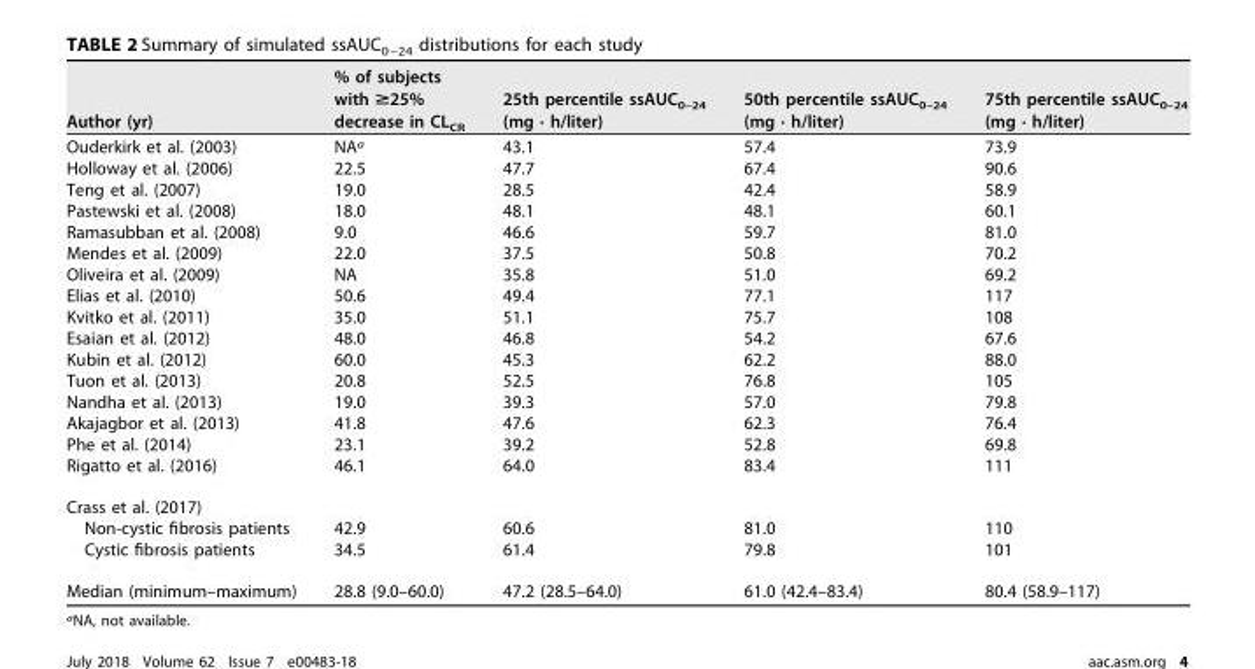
<table><thead><tr><td>Author (yr)</td><td>% of subjects with &gt;25% decrease in CLCR</td><td>25th percentile ssAUC<sub>0–24</sub> (mg · h/liter)</td><td>50th percentile ssAUC<sub>0–24</sub> (mg · h/liter)</td><td>75th percentile ssAUC<sub>0–24</sub> (mg · h/liter)</td></tr></thead><tbody><tr><td>Ouderkirk et al. (2003)</td><td>NA<sup>a</sup></td><td>43.1</td><td>57.4</td><td>73.9</td></tr><tr><td>Holloway et al. (2006)</td><td>22.5</td><td>47.7</td><td>67.4</td><td>90.6</td></tr><tr><td>Teng et al. (2007)</td><td>19.0</td><td>28.5</td><td>42.4</td><td>58.9</td></tr><tr><td>Pastewski et al. (2008)</td><td>18.0</td><td>48.1</td><td>48.1</td><td>60.1</td></tr><tr><td>Ramasubban et al. (2008)</td><td>9.0</td><td>46.6</td><td>59.7</td><td>81.0</td></tr><tr><td>Mendes et al. (2009)</td><td>22.0</td><td>37.5</td><td>50.8</td><td>70.2</td></tr><tr><td>Oliveira et al. (2009)</td><td>NA</td><td>35.8</td><td>51.0</td><td>69.2</td></tr><tr><td>Elias et al. (2010)</td><td>50.6</td><td>49.4</td><td>77.1</td><td>117</td></tr><tr><td>Kvitko et al. (2011)</td><td>35.0</td><td>51.1</td><td>75.7</td><td>108</td></tr><tr><td>Esaian et al. (2012)</td><td>48.0</td><td>46.8</td><td>54.2</td><td>67.6</td></tr><tr><td>Kubin et al. (2012)</td><td>60.0</td><td>45.3</td><td>62.2</td><td>88.0</td></tr><tr><td>Tuon et al. (2013)</td><td>20.8</td><td>52.5</td><td>76.8</td><td>105</td></tr><tr><td>Nandha et al. (2013)</td><td>19.0</td><td>39.3</td><td>57.0</td><td>79.8</td></tr><tr><td>Akajagbor et al. (2013)</td><td>41.8</td><td>47.6</td><td>62.3</td><td>76.4</td></tr><tr><td>Phe et al. (2014)</td><td>23.1</td><td>39.2</td><td>52.8</td><td>69.8</td></tr><tr><td>Rigatto et al. (2016)</td><td>46.1</td><td>64.0</td><td>83.4</td><td>111</td></tr><tr><td colspan="5">Crass et al. (2017)</td></tr><tr><td>Non-cystic fibrosis patients</td><td>42.9</td><td>60.6</td><td>81.0</td><td>110</td></tr><tr><td>Cystic fibrosis patients</td><td>34.5</td><td>61.4</td><td>79.8</td><td>101</td></tr><tr><td>Median (minimum–maximum)</td><td>28.8 (9.0–60.0)</td><td>47.2 (28.5–64.0)</td><td>61.0 (42.4–83.4)</td><td>80.4 (58.9–117)</td></tr></tbody></table>